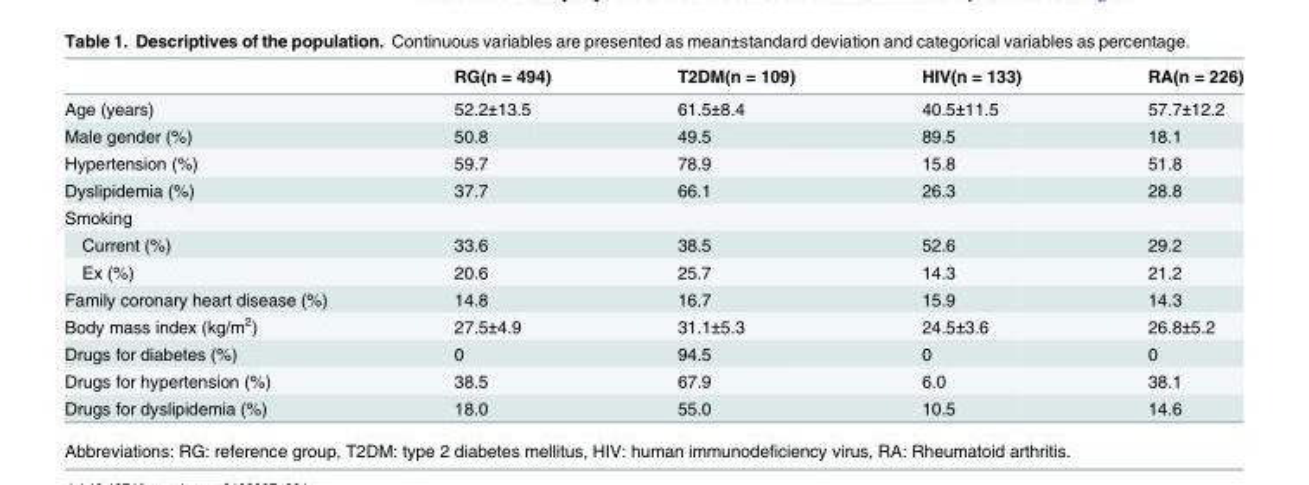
<table><thead><tr><td></td><td>RG(n = 494)</td><td>T2DM(n = 109)</td><td>HIV(n = 133)</td><td>RA(n = 226)</td></tr></thead><tbody><tr><td>Age (years)</td><td>52.2±13.5</td><td>61.5±8.4</td><td>40.5±11.5</td><td>57.7±12.2</td></tr><tr><td>Male gender (%)</td><td>50.8</td><td>49.5</td><td>89.5</td><td>18.1</td></tr><tr><td>Hypertension (%)</td><td>59.7</td><td>78.9</td><td>15.8</td><td>51.8</td></tr><tr><td>Dyslipidemia (%)</td><td>37.7</td><td>66.1</td><td>26.3</td><td>28.8</td></tr><tr><td colspan="5">Smoking</td></tr><tr><td>Current (%)</td><td>33.6</td><td>38.5</td><td>52.6</td><td>29.2</td></tr><tr><td>Ex (%)</td><td>20.6</td><td>25.7</td><td>14.3</td><td>21.2</td></tr><tr><td>Family coronary heart disease (%)</td><td>14.8</td><td>16.7</td><td>15.9</td><td>14.3</td></tr><tr><td>Body mass index (kg/m<sup>2</sup>)</td><td>27.5±4.9</td><td>31.1±5.3</td><td>24.5±3.6</td><td>26.8±5.2</td></tr><tr><td>Drugs for diabetes (%)</td><td>0</td><td>94.5</td><td>0</td><td>0</td></tr><tr><td>Drugs for hypertension (%)</td><td>38.5</td><td>67.9</td><td>6.0</td><td>38.1</td></tr><tr><td>Drugs for dyslipidemia (%)</td><td>18.0</td><td>55.0</td><td>10.5</td><td>14.6</td></tr></tbody></table>